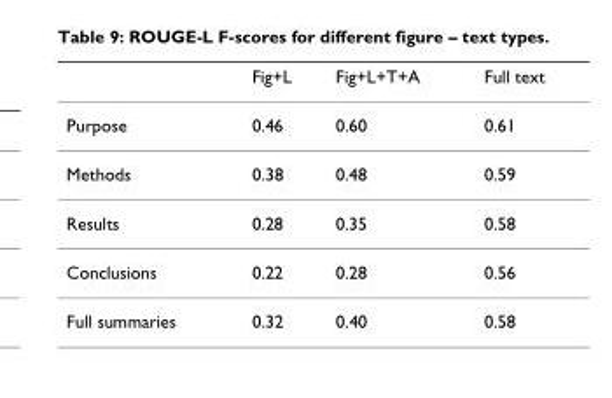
<table><thead><tr><td></td><td>Fig+L</td><td>Fig+L+T+A</td><td>Full text</td></tr></thead><tbody><tr><td>Purpose</td><td>0.46</td><td>0.60</td><td>0.61</td></tr><tr><td>Methods</td><td>0.38</td><td>0.48</td><td>0.59</td></tr><tr><td>Results</td><td>0.28</td><td>0.35</td><td>0.58</td></tr><tr><td>Conclusions</td><td>0.22</td><td>0.28</td><td>0.56</td></tr><tr><td>Full summaries</td><td>0.32</td><td>0.40</td><td>0.58</td></tr></tbody></table>